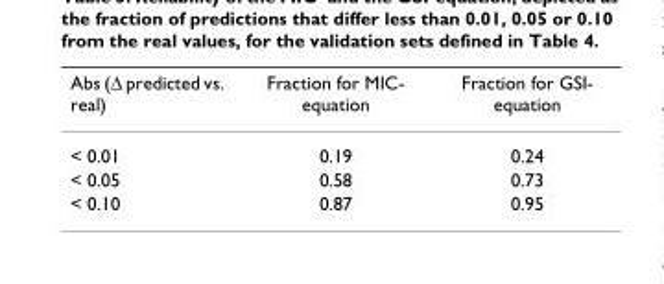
<table><thead><tr><td>Abs (∆ predicted vs. real)</td><td>Fraction for MIC- equation</td><td>Fraction for GSI- equation</td></tr></thead><tbody><tr><td>&lt; 0.01</td><td>0.19</td><td>0.24</td></tr><tr><td>&lt; 0.05</td><td>0.58</td><td>0.73</td></tr><tr><td>&lt; 0.10</td><td>0.87</td><td>0.95</td></tr></tbody></table>